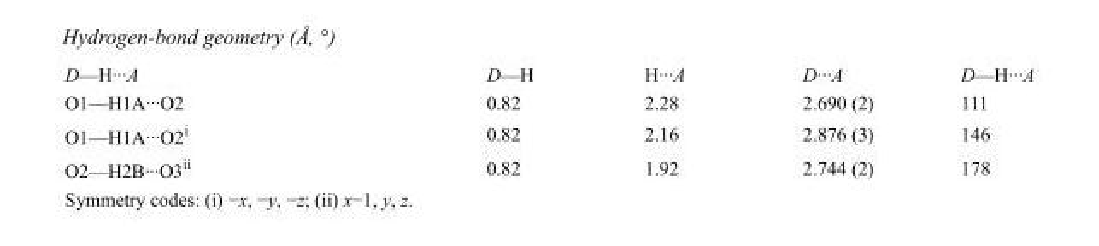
<table><tbody><tr><td>D—H···A</td><td>D—H</td><td>H···A</td><td>D···A</td><td>D—H···A</td></tr><tr><td>O1—H1A···O2</td><td>0.82</td><td>2.28</td><td>2.690 (2)</td><td>111</td></tr><tr><td>O1—H1A···O2<sup>i</sup></td><td>0.82</td><td>2.16</td><td>2.876 (3)</td><td>146</td></tr><tr><td>O2—H2B···O3<sup>ii</sup></td><td>0.82</td><td>1.92</td><td>2.744 (2)</td><td>178</td></tr></tbody></table>